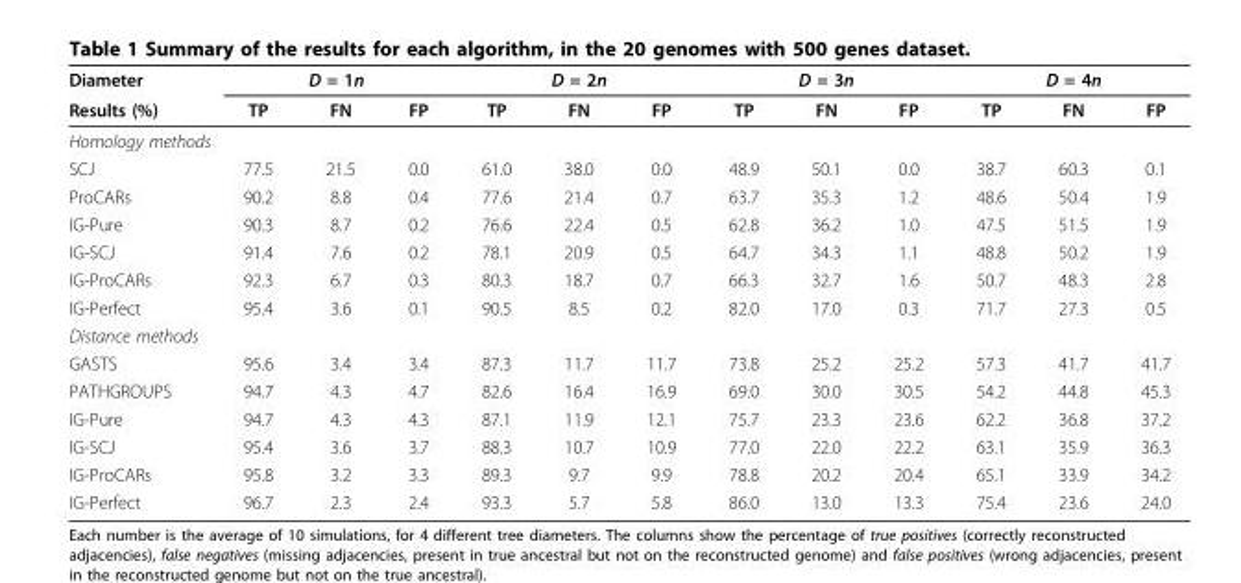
<table><thead><tr><td rowspan="2">Diameter Results (%)</td><td colspan="3">D = 1n</td><td colspan="3">D = 2n</td><td colspan="3">D = 3n</td><td colspan="3">D = 4n</td></tr><tr><td>TP</td><td>FN</td><td>FP</td><td>TP</td><td>FN</td><td>FP</td><td>TP</td><td>FN</td><td>FP</td><td>TP</td><td>FN</td><td>FP</td></tr></thead><tbody><tr><td colspan="13">Homology methods</td></tr><tr><td>SCJ</td><td>77.5</td><td>21.5</td><td>0.0</td><td>61.0</td><td>38.0</td><td>0.0</td><td>48.9</td><td>50.1</td><td>0.0</td><td>38.7</td><td>60.3</td><td>0.1</td></tr><tr><td>ProCARs</td><td>90.2</td><td>8.8</td><td>0.4</td><td>77.6</td><td>21.4</td><td>0.7</td><td>63.7</td><td>35.3</td><td>1.2</td><td>48.6</td><td>50.4</td><td>1.9</td></tr><tr><td>IG-Pure</td><td>90.3</td><td>8.7</td><td>0.2</td><td>76.6</td><td>22.4</td><td>0.5</td><td>62.8</td><td>36.2</td><td>1.0</td><td>47.5</td><td>51.5</td><td>1.9</td></tr><tr><td>IG-SCJ</td><td>91.4</td><td>7.6</td><td>0.2</td><td>78.1</td><td>20.9</td><td>0.5</td><td>64.7</td><td>34.3</td><td>1.1</td><td>48.8</td><td>50.2</td><td>1.9</td></tr><tr><td>IG-ProCARs</td><td>92.3</td><td>6.7</td><td>0.3</td><td>80.3</td><td>18.7</td><td>0.7</td><td>66.3</td><td>32.7</td><td>1.6</td><td>50.7</td><td>48.3</td><td>2.8</td></tr><tr><td>IG-Perfect</td><td>95.4</td><td>3.6</td><td>0.1</td><td>90.5</td><td>8.5</td><td>0.2</td><td>82.0</td><td>17.0</td><td>0.3</td><td>71.7</td><td>27.3</td><td>0.5</td></tr><tr><td colspan="13">Distance methods</td></tr><tr><td>GASTS</td><td>95.6</td><td>3.4</td><td>3.4</td><td>87.3</td><td>11.7</td><td>11.7</td><td>73.8</td><td>25.2</td><td>25.2</td><td>57.3</td><td>41.7</td><td>41.7</td></tr><tr><td>PATHGROUPS</td><td>94.7</td><td>4.3</td><td>4.7</td><td>82.6</td><td>16.4</td><td>16.9</td><td>69.0</td><td>30.0</td><td>30.5</td><td>54.2</td><td>44.8</td><td>45.3</td></tr><tr><td>IG-Pure</td><td>94.7</td><td>4.3</td><td>4.3</td><td>87.1</td><td>11.9</td><td>12.1</td><td>75.7</td><td>23.3</td><td>23.6</td><td>62.2</td><td>36.8</td><td>37.2</td></tr><tr><td>IG-SCJ</td><td>95.4</td><td>3.6</td><td>3.7</td><td>88.3</td><td>10.7</td><td>10.9</td><td>77.0</td><td>22.0</td><td>22.2</td><td>63.1</td><td>35.9</td><td>36.3</td></tr><tr><td>IG-ProCARs</td><td>95.8</td><td>3.2</td><td>3.3</td><td>89.3</td><td>9.7</td><td>9.9</td><td>78.8</td><td>20.2</td><td>20.4</td><td>65.1</td><td>33.9</td><td>34.2</td></tr><tr><td>IG-Perfect</td><td>96.7</td><td>2.3</td><td>2.4</td><td>93.3</td><td>5.7</td><td>5.8</td><td>86.0</td><td>13.0</td><td>13.3</td><td>75.4</td><td>23.6</td><td>24.0</td></tr></tbody></table>